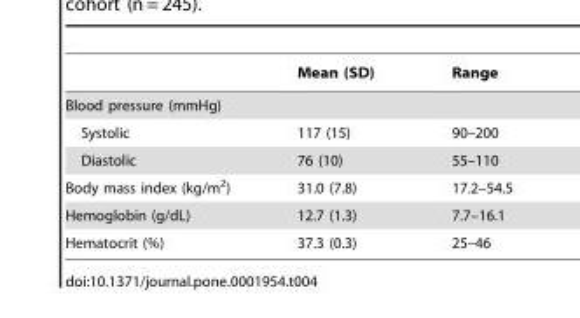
<table><thead><tr><td></td><td>Mean (SD)</td><td>Range</td></tr></thead><tbody><tr><td colspan="3">Blood pressure (mmHg)</td></tr><tr><td>Systolic</td><td>117 (15)</td><td>90–200</td></tr><tr><td>Diastolic</td><td>76 (10)</td><td>55–110</td></tr><tr><td>Body mass index (kg/m<sup>2</sup>)</td><td>31.0 (7.8)</td><td>17.2–54.5</td></tr><tr><td>Hemoglobin (g/dL)</td><td>12.7 (1.3)</td><td>7.7–16.1</td></tr><tr><td>Hematocrit (%)</td><td>37.3 (0.3)</td><td>25–46</td></tr></tbody></table>